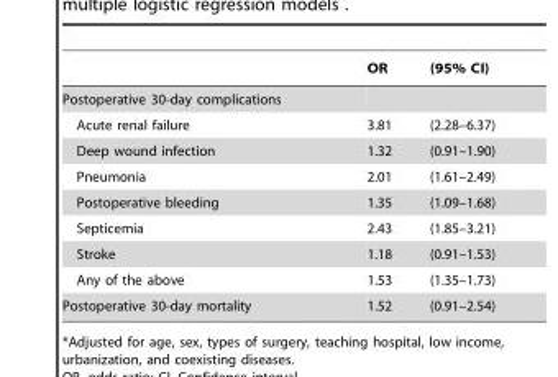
<table><thead><tr><td></td><td>OR</td><td>(95% CI)</td></tr></thead><tbody><tr><td colspan="3">Postoperative 30-day complications</td></tr><tr><td>Acute renal failure</td><td>3.81</td><td>(2.28–6.37)</td></tr><tr><td>Deep wound infection</td><td>1.32</td><td>(0.91–1.90)</td></tr><tr><td>Pneumonia</td><td>2.01</td><td>(1.61–2.49)</td></tr><tr><td>Postoperative bleeding</td><td>1.35</td><td>(1.09–1.68)</td></tr><tr><td>Septicemia</td><td>2.43</td><td>(1.85–3.21)</td></tr><tr><td>Stroke</td><td>1.18</td><td>(0.91–1.53)</td></tr><tr><td>Any of the above</td><td>1.53</td><td>(1.35–1.73)</td></tr><tr><td>Postoperative 30-day mortality</td><td>1.52</td><td>(0.91–2.54)</td></tr></tbody></table>